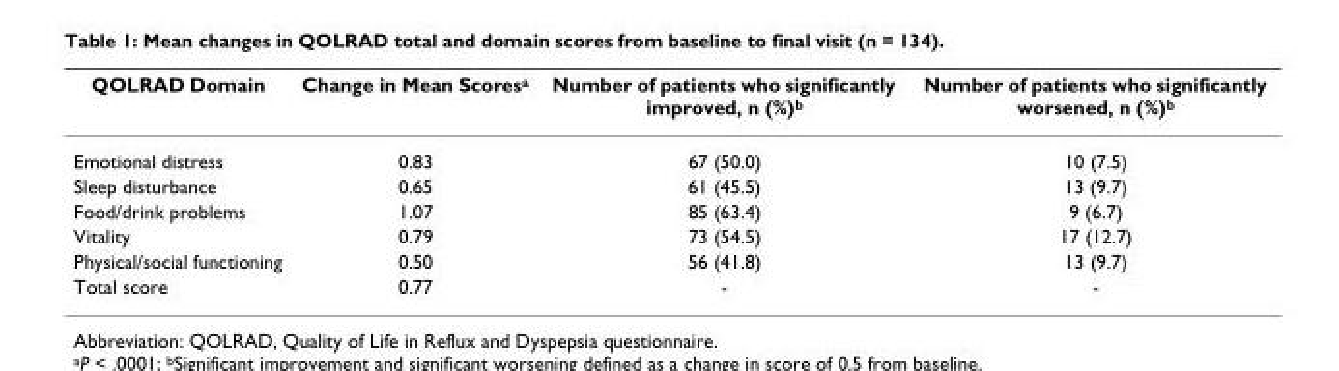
<table><thead><tr><td>QOLRAD Domain</td><td>Change in Mean Scores<sup>a</sup></td><td>Number of patients who significantly improved, n (%)<sup>b</sup></td><td>Number of patients who significantly worsened, n (%)<sup>b</sup></td></tr></thead><tbody><tr><td>Emotional distress</td><td>0.83</td><td>67 (50.0)</td><td>10 (7.5)</td></tr><tr><td>Sleep disturbance</td><td>0.65</td><td>61 (45.5)</td><td>13 (9.7)</td></tr><tr><td>Food/drink problems</td><td>1.07</td><td>85 (63.4)</td><td>9 (6.7)</td></tr><tr><td>Vitality</td><td>0.79</td><td>73 (54.5)</td><td>17 (12.7)</td></tr><tr><td>Physical/social functioning</td><td>0.50</td><td>56 (41.8)</td><td>13 (9.7)</td></tr><tr><td>Total score</td><td>0.77</td><td>-</td><td>-</td></tr></tbody></table>